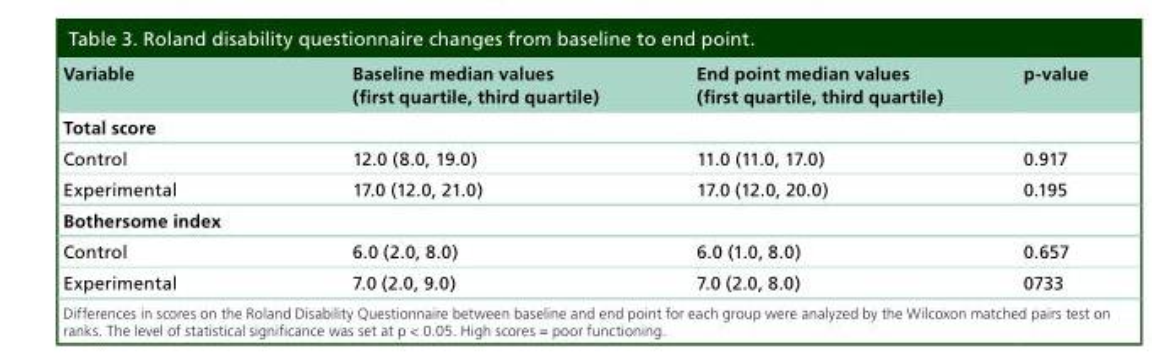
<table><thead><tr><td>Variable</td><td>Baseline median values (first quartile, third quartile)</td><td>End point median values (first quartile, third quartile)</td><td>p-value</td></tr></thead><tbody><tr><td colspan="4">Total score</td></tr><tr><td>Control</td><td>12.0 (8.0, 19.0)</td><td>11.0 (11.0, 17.0)</td><td>0.917</td></tr><tr><td>Experimental</td><td>17.0 (12.0, 21.0)</td><td>17.0 (12.0, 20.0)</td><td>0.195</td></tr><tr><td colspan="4">Bothersome index</td></tr><tr><td>Control</td><td>6.0 (2.0, 8.0)</td><td>6.0 (1.0, 8.0)</td><td>0.657</td></tr><tr><td>Experimental</td><td>7.0 (2.0, 9.0)</td><td>7.0 (2.0, 8.0)</td><td>0733</td></tr></tbody></table>